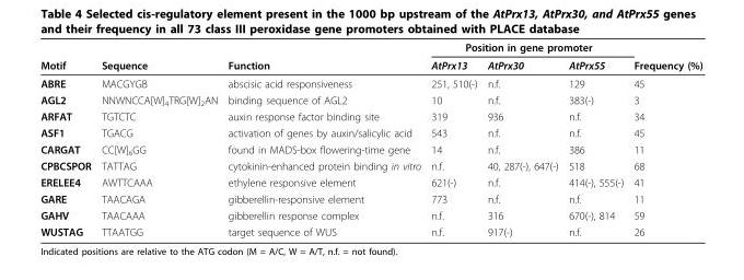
<table><thead><tr><td rowspan="2">Motif</td><td rowspan="2">Sequence</td><td rowspan="2">Function</td><td colspan="3">Position in gene promoter</td><td rowspan="2">Frequency (%)</td></tr><tr><td>AtPrx13</td><td>AtPrx30</td><td>AtPrx55</td></tr></thead><tbody><tr><td>ABRE</td><td>MACGYGB</td><td>abscisic acid responsiveness</td><td>251, 510(-)</td><td>n.f.</td><td>129</td><td>45</td></tr><tr><td>AGL2</td><td>NNWNCCA[W]<sub>4</sub>TRG[W]<sub>2</sub>AN</td><td>binding sequence of AGL2</td><td>10</td><td>n.f.</td><td>383(-)</td><td>3</td></tr><tr><td>ARFAT</td><td>TGTCTC</td><td>auxin response factor binding site</td><td>319</td><td>936</td><td>n.f.</td><td>34</td></tr><tr><td>ASF1</td><td>TGACG</td><td>activation of genes by auxin/salicylic acid</td><td>543</td><td>n.f.</td><td>n.f.</td><td>45</td></tr><tr><td>CARGAT</td><td>CC[W]<sub>6</sub>GG</td><td>found in MADS-box flowering-time gene</td><td>14</td><td>n.f.</td><td>386</td><td>11</td></tr><tr><td>CPBCSPOR</td><td>TATTAG</td><td>cytokinin-enhanced protein binding in vitro</td><td>n.f.</td><td>40, 287(-), 647(-)</td><td>518</td><td>68</td></tr><tr><td>ERELEE4</td><td>AWTTCAAA</td><td>ethylene responsive element</td><td>621(-)</td><td>n.f.</td><td>414(-), 555(-)</td><td>41</td></tr><tr><td>GARE</td><td>TAACAGA</td><td>gibberellin-responsive element</td><td>773</td><td>n.f.</td><td>n.f.</td><td>11</td></tr><tr><td>GAHV</td><td>TAACAAA</td><td>gibberellin response complex</td><td>n.f.</td><td>316</td><td>670(-), 814</td><td>59</td></tr><tr><td>WUSTAG</td><td>TTAATGG</td><td>target sequence of WUS</td><td>n.f.</td><td>917(-)</td><td>n.f.</td><td>26</td></tr></tbody></table>